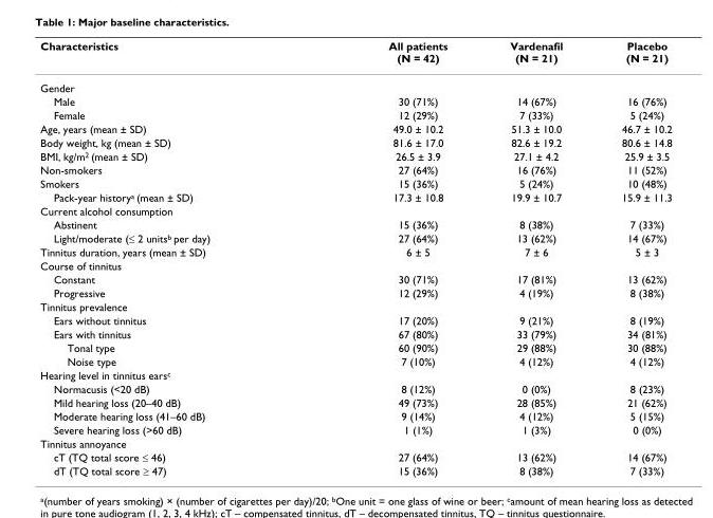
<table><thead><tr><td>Characteristics</td><td>All patients (N = 42)</td><td>Vardenafil (N = 21)</td><td>Placebo (N = 21)</td></tr></thead><tbody><tr><td colspan="4">Gender</td></tr><tr><td>Male</td><td>30 (71%)</td><td>14 (67%)</td><td>16 (76%)</td></tr><tr><td>Female</td><td>12 (29%)</td><td>7 (33%)</td><td>5 (24%)</td></tr><tr><td>Age, years (mean ± SD)</td><td>49.0 ± 10.2</td><td>51.3 ± 10.0</td><td>46.7 ± 10.2</td></tr><tr><td>Body weight, kg (mean ± SD)</td><td>81.6 ± 17.0</td><td>82.6 ± 19.2</td><td>80.6 ± 14.8</td></tr><tr><td>BMI, kg/m<sup>2</sup> (mean ± SD)</td><td>26.5 ± 3.9</td><td>27.1 ± 4.2</td><td>25.9 ± 3.5</td></tr><tr><td>Non-smokers</td><td>27 (64%)</td><td>16 (76%)</td><td>11 (52%)</td></tr><tr><td>Smokers</td><td>15 (36%)</td><td>5 (24%)</td><td>10 (48%)</td></tr><tr><td>Pack-year history<sup>a</sup> (mean ± SD)</td><td>17.3 ± 10.8</td><td>19.9 ± 10.7</td><td>15.9 ± 11.3</td></tr><tr><td colspan="4">Current alcohol consumption</td></tr><tr><td>Abstinent</td><td>15 (36%)</td><td>8 (38%)</td><td>7 (33%)</td></tr><tr><td>Light/moderate (≤ 2 units<sup>b</sup> per day)</td><td>27 (64%)</td><td>13 (62%)</td><td>14 (67%)</td></tr><tr><td>Tinnitus duration, years (mean ± SD)</td><td>6 ± 5</td><td>7 ± 6</td><td>5 ± 3</td></tr><tr><td colspan="4">Course of tinnitus</td></tr><tr><td>Constant</td><td>30 (71%)</td><td>17 (81%)</td><td>13 (62%)</td></tr><tr><td>Progressive</td><td>12 (29%)</td><td>4 (19%)</td><td>8 (38%)</td></tr><tr><td colspan="4">Tinnitus prevalence</td></tr><tr><td>Ears without tinnitus</td><td>17 (20%)</td><td>9 (21%)</td><td>8 (19%)</td></tr><tr><td>Ears with tinnitus</td><td>67 (80%)</td><td>33 (79%)</td><td>34 (81%)</td></tr><tr><td>Tonal type</td><td>60 (90%)</td><td>29 (88%)</td><td>30 (88%)</td></tr><tr><td>Noise type</td><td>7 (10%)</td><td>4 (12%)</td><td>4 (12%)</td></tr><tr><td colspan="4">Hearing level in tinnitus ears<sup>c</sup></td></tr><tr><td>Normacusis (&lt;20 dB)</td><td>8 (12%)</td><td>0 (0%)</td><td>8 (23%)</td></tr><tr><td>Mild hearing loss (20–40 dB)</td><td>49 (73%)</td><td>28 (85%)</td><td>21 (62%)</td></tr><tr><td>Moderate hearing loss (41–60 dB)</td><td>9 (14%)</td><td>4 (12%)</td><td>5 (15%)</td></tr><tr><td>Severe hearing loss (&gt;60 dB)</td><td>1 (1%)</td><td>1 (3%)</td><td>0 (0%)</td></tr><tr><td colspan="4">Tinnitus annoyance</td></tr><tr><td>cT (TQ total score ≤ 46)</td><td>27 (64%)</td><td>13 (62%)</td><td>14 (67%)</td></tr><tr><td>dT (TQ total score ≥ 47)</td><td>15 (36%)</td><td>8 (38%)</td><td>7 (33%)</td></tr></tbody></table>